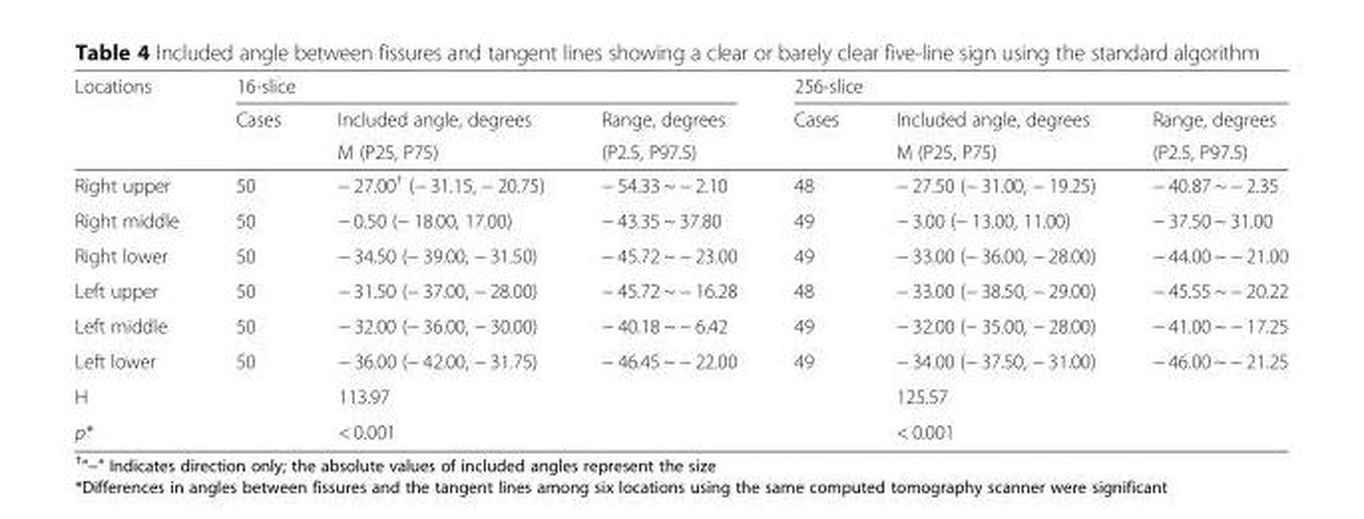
<table><thead><tr><td rowspan="3">Locations</td><td colspan="3">16-slice</td><td colspan="3">256-slice</td></tr><tr><td rowspan="2">Cases</td><td rowspan="2">Included angle, degrees M (P25, P75)</td><td rowspan="2">Range, degrees (P2.5, P97.5)</td><td rowspan="2">Cases</td><td rowspan="2">Included angle, degrees M (P25, P75)</td><td rowspan="2">Range, degrees (P2.5, P97.5)</td></tr><tr></tr></thead><tbody><tr><td>Right upper</td><td>50</td><td>− 27.00<sup>†</sup> (− 31.15, − 20.75)</td><td>− 54.33 ~ − 2.10</td><td>48</td><td>− 27.50 (− 31.00, − 19.25)</td><td>− 40.87 ~ − 2.35</td></tr><tr><td>Right middle</td><td>50</td><td>− 0.50 (− 18.00, 17.00)</td><td>− 43.35 ~ 37.80</td><td>49</td><td>− 3.00 (− 13.00, 11.00)</td><td>− 37.50 ~ 31.00</td></tr><tr><td>Right lower</td><td>50</td><td>− 34.50 (− 39.00, − 31.50)</td><td>− 45.72 ~ − 23.00</td><td>49</td><td>− 33.00 (− 36.00, − 28.00)</td><td>− 44.00 ~ − 21.00</td></tr><tr><td>Left upper</td><td>50</td><td>− 31.50 (− 37.00, − 28.00)</td><td>− 45.72 ~ − 16.28</td><td>48</td><td>− 33.00 (− 38.50, − 29.00)</td><td>− 45.55 ~ − 20.22</td></tr><tr><td>Left middle</td><td>50</td><td>− 32.00 (− 36.00, − 30.00)</td><td>− 40.18 ~ − 6.42</td><td>49</td><td>− 32.00 (− 35.00, − 28.00)</td><td>− 41.00 ~ − 17.25</td></tr><tr><td>Left lower</td><td>50</td><td>− 36.00 (− 42.00, − 31.75)</td><td>− 46.45 ~ − 22.00</td><td>49</td><td>− 34.00 (− 37.50, − 31.00)</td><td>− 46.00 ~ − 21.25</td></tr><tr><td>H</td><td></td><td>113.97</td><td></td><td></td><td>125.57</td><td></td></tr><tr><td>p*</td><td></td><td>&lt; 0.001</td><td></td><td></td><td>&lt; 0.001</td><td></td></tr></tbody></table>